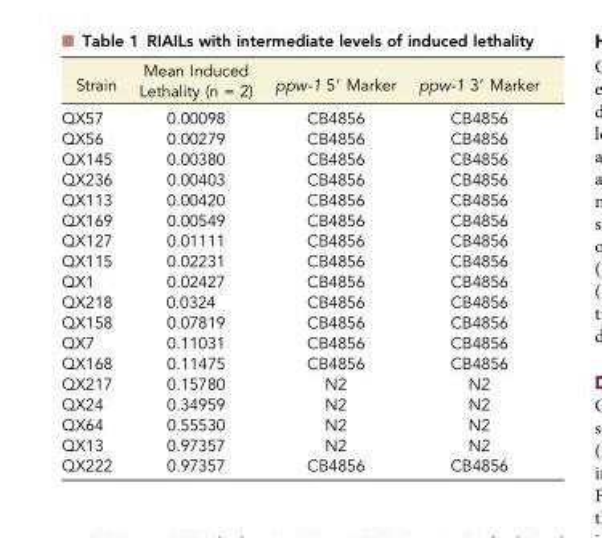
<table><thead><tr><td>Strain</td><td>Mean Induced Lethality (n = 2)</td><td>ppw-1 5′ Marker</td><td>ppw-1 3′ Marker</td></tr></thead><tbody><tr><td>QX57</td><td>0.00098</td><td>CB4856</td><td>CB4856</td></tr><tr><td>QX56</td><td>0.00279</td><td>CB4856</td><td>CB4856</td></tr><tr><td>QX145</td><td>0.00380</td><td>CB4856</td><td>CB4856</td></tr><tr><td>QX236</td><td>0.00403</td><td>CB4856</td><td>CB4856</td></tr><tr><td>QX113</td><td>0.00420</td><td>CB4856</td><td>CB4856</td></tr><tr><td>QX169</td><td>0.00549</td><td>CB4856</td><td>CB4856</td></tr><tr><td>QX127</td><td>0.01111</td><td>CB4856</td><td>CB4856</td></tr><tr><td>QX115</td><td>0.02231</td><td>CB4856</td><td>CB4856</td></tr><tr><td>QX1</td><td>0.02427</td><td>CB4856</td><td>CB4856</td></tr><tr><td>QX218</td><td>0.0324</td><td>CB4856</td><td>CB4856</td></tr><tr><td>QX158</td><td>0.07819</td><td>CB4856</td><td>CB4856</td></tr><tr><td>QX7</td><td>0.11031</td><td>CB4856</td><td>CB4856</td></tr><tr><td>QX168</td><td>0.11475</td><td>CB4856</td><td>CB4856</td></tr><tr><td>QX217</td><td>0.15780</td><td>N2</td><td>N2</td></tr><tr><td>QX24</td><td>0.34959</td><td>N2</td><td>N2</td></tr><tr><td>QX64</td><td>0.55530</td><td>N2</td><td>N2</td></tr><tr><td>QX13</td><td>0.97357</td><td>N2</td><td>N2</td></tr><tr><td>QX222</td><td>0.97357</td><td>CB4856</td><td>CB4856</td></tr></tbody></table>